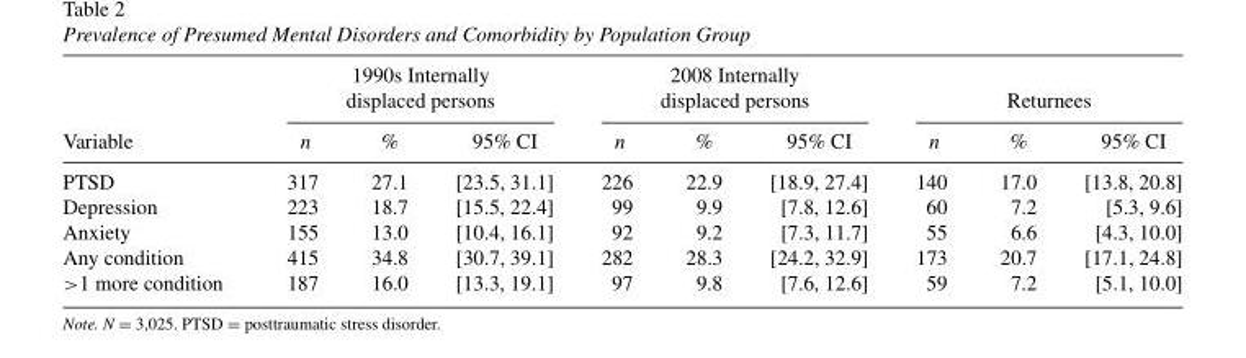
<table><thead><tr><td rowspan="3">Variable</td><td rowspan="2" colspan="3">1990s Internally displaced persons</td><td rowspan="2" colspan="3">2008 Internally displaced persons</td><td></td><td></td><td></td></tr><tr><td colspan="3">Returnees</td></tr><tr><td>n</td><td>%</td><td>95% CI</td><td>n</td><td>%</td><td>95% CI</td><td>n</td><td>%</td><td>95% CI</td></tr></thead><tbody><tr><td>PTSD</td><td>317</td><td>27.1</td><td>[23.5, 31.1]</td><td>226</td><td>22.9</td><td>[18.9, 27.4]</td><td>140</td><td>17.0</td><td>[13.8, 20.8]</td></tr><tr><td>Depression</td><td>223</td><td>18.7</td><td>[15.5, 22.4]</td><td>99</td><td>9.9</td><td>[7.8, 12.6]</td><td>60</td><td>7.2</td><td>[5.3, 9.6]</td></tr><tr><td>Anxiety</td><td>155</td><td>13.0</td><td>[10.4, 16.1]</td><td>92</td><td>9.2</td><td>[7.3, 11.7]</td><td>55</td><td>6.6</td><td>[4.3, 10.0]</td></tr><tr><td>Any condition</td><td>415</td><td>34.8</td><td>[30.7, 39.1]</td><td>282</td><td>28.3</td><td>[24.2, 32.9]</td><td>173</td><td>20.7</td><td>[17.1, 24.8]</td></tr><tr><td>&gt;1 more condition</td><td>187</td><td>16.0</td><td>[13.3, 19.1]</td><td>97</td><td>9.8</td><td>[7.6, 12.6]</td><td>59</td><td>7.2</td><td>[5.1, 10.0]</td></tr></tbody></table>